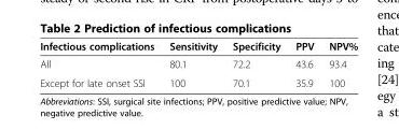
<table><thead><tr><td>Infectious complications</td><td>Sensitivity</td><td>Specificity</td><td>PPV</td><td>NPV%</td></tr></thead><tbody><tr><td>All</td><td>80.1</td><td>72.2</td><td>43.6</td><td>93.4</td></tr><tr><td>Except for late onset SSI</td><td>100</td><td>70.1</td><td>35.9</td><td>100</td></tr></tbody></table>